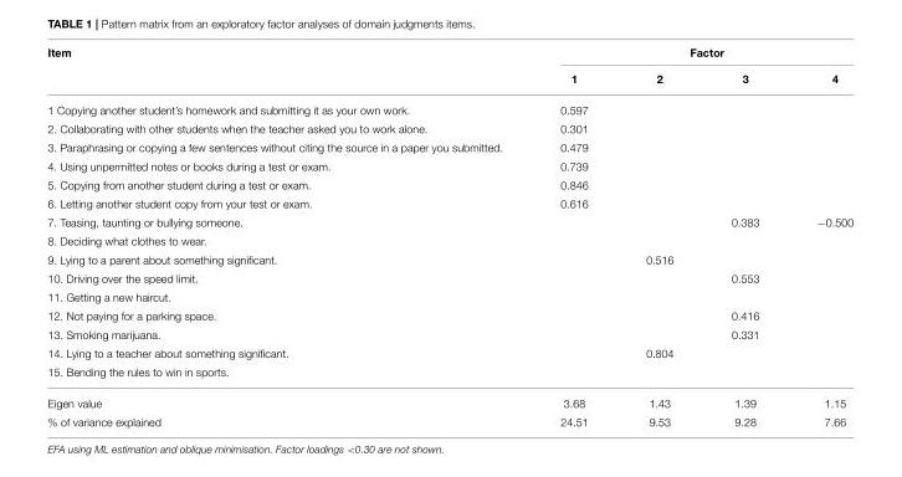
<table><thead><tr><td rowspan="2">Item</td><td colspan="4">Factor</td></tr><tr><td>1</td><td>2</td><td>3</td><td>4</td></tr></thead><tbody><tr><td>1 Copying another student’s homework and submitting it as your own work.</td><td>0.597</td><td></td><td></td><td></td></tr><tr><td>2. Collaborating with other students when the teacher asked you to work alone.</td><td>0.301</td><td></td><td></td><td></td></tr><tr><td>3. Paraphrasing or copying a few sentences without citing the source in a paper you submitted.</td><td>0.479</td><td></td><td></td><td></td></tr><tr><td>4. Using unpermitted notes or books during a test or exam.</td><td>0.739</td><td></td><td></td><td></td></tr><tr><td>5. Copying from another student during a test or exam.</td><td>0.846</td><td></td><td></td><td></td></tr><tr><td>6. Letting another student copy from your test or exam.</td><td>0.616</td><td></td><td></td><td></td></tr><tr><td>7. Teasing, taunting or bullying someone.</td><td></td><td></td><td>0.383</td><td>−0.500</td></tr><tr><td colspan="5">8. Deciding what clothes to wear.</td></tr><tr><td>9. Lying to a parent about something significant.</td><td></td><td>0.516</td><td></td><td></td></tr><tr><td>10. Driving over the speed limit.</td><td></td><td></td><td>0.553</td><td></td></tr><tr><td colspan="5">11. Getting a new haircut.</td></tr><tr><td>12. Not paying for a parking space.</td><td></td><td></td><td>0.416</td><td></td></tr><tr><td>13. Smoking marijuana.</td><td></td><td></td><td>0.331</td><td></td></tr><tr><td>14. Lying to a teacher about something significant.</td><td></td><td>0.804</td><td></td><td></td></tr><tr><td colspan="5">15. Bending the rules to win in sports.</td></tr><tr><td>Eigen value</td><td>3.68</td><td>1.43</td><td>1.39</td><td>1.15</td></tr><tr><td>% of variance explained</td><td>24.51</td><td>9.53</td><td>9.28</td><td>7.66</td></tr></tbody></table>